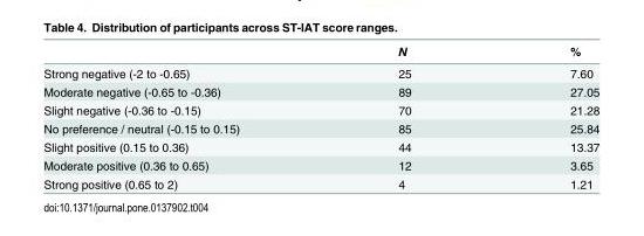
<table><thead><tr><td></td><td>N</td><td>%</td></tr></thead><tbody><tr><td>Strong negative (-2 to -0.65)</td><td>25</td><td>7.60</td></tr><tr><td>Moderate negative (-0.65 to -0.36)</td><td>89</td><td>27.05</td></tr><tr><td>Slight negative (-0.36 to -0.15)</td><td>70</td><td>21.28</td></tr><tr><td>No preference / neutral (-0.15 to 0.15)</td><td>85</td><td>25.84</td></tr><tr><td>Slight positive (0.15 to 0.36)</td><td>44</td><td>13.37</td></tr><tr><td>Moderate positive (0.36 to 0.65)</td><td>12</td><td>3.65</td></tr><tr><td>Strong positive (0.65 to 2)</td><td>4</td><td>1.21</td></tr></tbody></table>